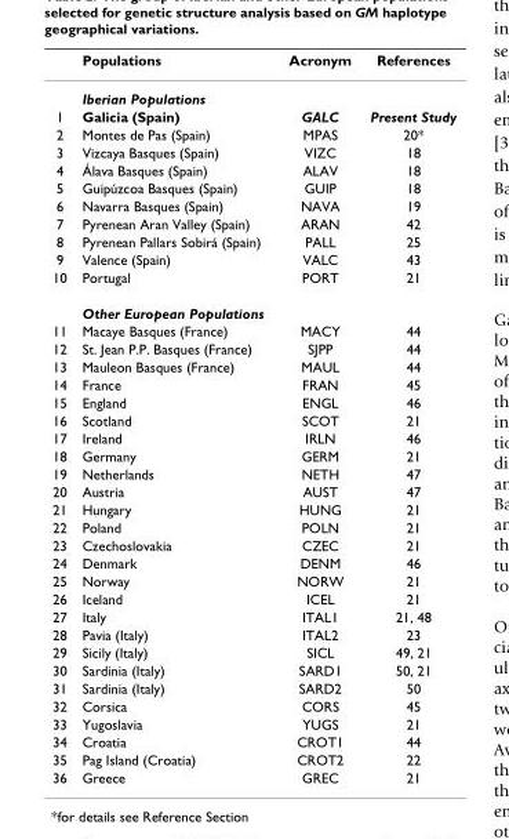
<table><thead><tr><td></td><td>Populations</td><td>Acronym</td><td>References</td></tr></thead><tbody><tr><td></td><td>Iberian Populations</td><td></td><td></td></tr><tr><td>1</td><td>Galicia (Spain)</td><td>GALC</td><td>Present Study</td></tr><tr><td>2</td><td>Montes de Pas (Spain)</td><td>MPAS</td><td>20*</td></tr><tr><td>3</td><td>Vizcaya Basques (Spain)</td><td>VIZC</td><td>18</td></tr><tr><td>4</td><td>Álava Basques (Spain)</td><td>ALAV</td><td>18</td></tr><tr><td>5</td><td>Guipúzcoa Basques (Spain)</td><td>GUIP</td><td>18</td></tr><tr><td>6</td><td>Navarra Basques (Spain)</td><td>NAVA</td><td>19</td></tr><tr><td>7</td><td>Pyrenean Aran Valley (Spain)</td><td>ARAN</td><td>42</td></tr><tr><td>8</td><td>Pyrenean Pallars Sobirá (Spain)</td><td>PALL</td><td>25</td></tr><tr><td>9</td><td>Valence (Spain)</td><td>VALC</td><td>43</td></tr><tr><td rowspan="2">10</td><td>Portugal</td><td>PORT</td><td>21</td></tr><tr><td>Other European Populations</td><td></td><td></td></tr><tr><td>11</td><td>Macaye Basques (France)</td><td>MACY</td><td>44</td></tr><tr><td>12</td><td>St. Jean P.P. Basques (France)</td><td>SJPP</td><td>44</td></tr><tr><td>13</td><td>Mauleon Basques (France)</td><td>MAUL</td><td>44</td></tr><tr><td>14</td><td>France</td><td>FRAN</td><td>45</td></tr><tr><td>15</td><td>England</td><td>ENGL</td><td>46</td></tr><tr><td>16</td><td>Scotland</td><td>SCOT</td><td>21</td></tr><tr><td>17</td><td>Ireland</td><td>IRLN</td><td>46</td></tr><tr><td>18</td><td>Germany</td><td>GERM</td><td>21</td></tr><tr><td>19</td><td>Netherlands</td><td>NETH</td><td>47</td></tr><tr><td>20</td><td>Austria</td><td>AUST</td><td>47</td></tr><tr><td>21</td><td>Hungary</td><td>HUNG</td><td>21</td></tr><tr><td>22</td><td>Poland</td><td>POLN</td><td>21</td></tr><tr><td>23</td><td>Czechoslovakia</td><td>CZEC</td><td>21</td></tr><tr><td>24</td><td>Denmark</td><td>DENM</td><td>46</td></tr><tr><td>25</td><td>Norway</td><td>NORW</td><td>21</td></tr><tr><td>26</td><td>Iceland</td><td>ICEL</td><td>21</td></tr><tr><td>27</td><td>Italy</td><td>ITAL1</td><td>21, 48</td></tr><tr><td>28</td><td>Pavia (Italy)</td><td>ITAL2</td><td>23</td></tr><tr><td>29</td><td>Sicily (Italy)</td><td>SICL</td><td>49, 21</td></tr><tr><td>30</td><td>Sardinia (Italy)</td><td>SARD1</td><td>50, 21</td></tr><tr><td>31</td><td>Sardinia (Italy)</td><td>SARD2</td><td>50</td></tr><tr><td>32</td><td>Corsica</td><td>CORS</td><td>45</td></tr><tr><td>33</td><td>Yugoslavia</td><td>YUGS</td><td>21</td></tr><tr><td>34</td><td>Croatia</td><td>CROT1</td><td>44</td></tr><tr><td>35</td><td>Pag Island (Croatia)</td><td>CROT2</td><td>22</td></tr><tr><td>36</td><td>Greece</td><td>GREC</td><td>21</td></tr></tbody></table>